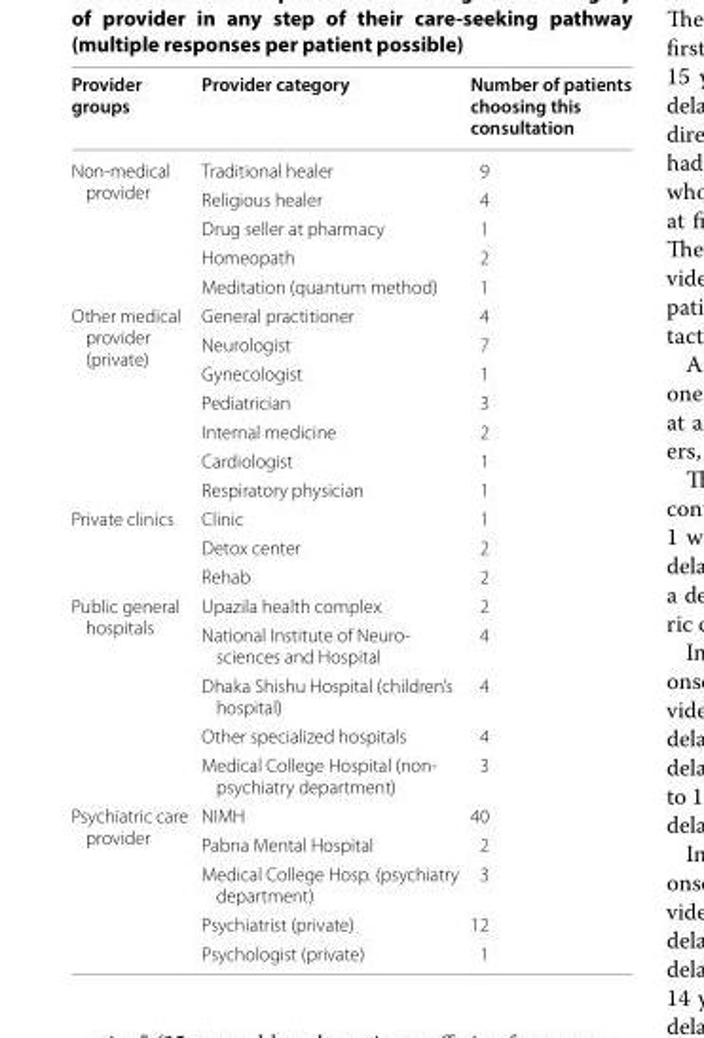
<table><thead><tr><td>Provider groups</td><td>Provider category</td><td>Number of patients choosing this consultation</td></tr></thead><tbody><tr><td rowspan="5">Non-medical provider</td><td>Traditional healer</td><td>9</td></tr><tr><td>Religious healer</td><td>4</td></tr><tr><td>Drug seller at pharmacy</td><td>1</td></tr><tr><td>Homeopath</td><td>2</td></tr><tr><td>Meditation (quantum method)</td><td>1</td></tr><tr><td rowspan="7">Other medical provider (private)</td><td>General practitioner</td><td>4</td></tr><tr><td>Neurologist</td><td>7</td></tr><tr><td>Gynecologist</td><td>1</td></tr><tr><td>Pediatrician</td><td>3</td></tr><tr><td>Internal medicine</td><td>2</td></tr><tr><td>Cardiologist</td><td>1</td></tr><tr><td>Respiratory physician</td><td>1</td></tr><tr><td rowspan="3">Private clinics</td><td>Clinic</td><td>1</td></tr><tr><td>Detox center</td><td>2</td></tr><tr><td>Rehab</td><td>2</td></tr><tr><td rowspan="5">Public general hospitals</td><td>Upazila health complex</td><td>2</td></tr><tr><td>National Institute of Neuro- sciences and Hospital</td><td>4</td></tr><tr><td>Dhaka Shishu Hospital (children’s hospital)</td><td>4</td></tr><tr><td>Other specialized hospitals</td><td>4</td></tr><tr><td>Medical College Hospital (non- psychiatry department)</td><td>3</td></tr><tr><td rowspan="5">Psychiatric care provider</td><td>NIMH</td><td>40</td></tr><tr><td>Pabna Mental Hospital</td><td>2</td></tr><tr><td>Medical College Hosp. (psychiatry department)</td><td>3</td></tr><tr><td>Psychiatrist (private)</td><td>12</td></tr><tr><td>Psychologist (private)</td><td>1</td></tr></tbody></table>